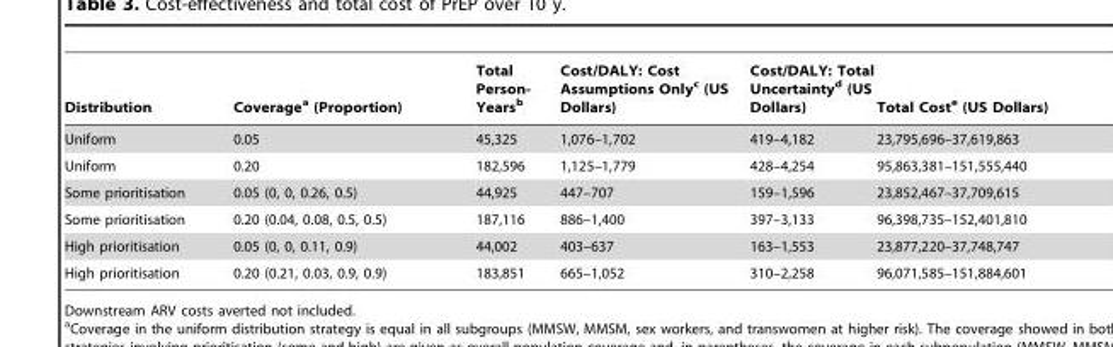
<table><thead><tr><td>Distribution</td><td>Coverage<sup>a</sup> (Proportion)</td><td>Total Person- Years<sup>b</sup></td><td>Cost/DALY: Cost Assumptions Only<sup>c</sup> (US Dollars)</td><td>Cost/DALY: Total Uncertainty<sup>d</sup> (US Dollars)</td><td>Total Cost<sup>e</sup> (US Dollars)</td></tr></thead><tbody><tr><td>Uniform</td><td>0.05</td><td>45,325</td><td>1,076–1,702</td><td>419–4,182</td><td>23,795,696–37,619,863</td></tr><tr><td>Uniform</td><td>0.20</td><td>182,596</td><td>1,125–1,779</td><td>428–4,254</td><td>95,863,381–151,555,440</td></tr><tr><td>Some prioritisation</td><td>0.05 (0, 0, 0.26, 0.5)</td><td>44,925</td><td>447–707</td><td>159–1,596</td><td>23,852,467–37,709,615</td></tr><tr><td>Some prioritisation</td><td>0.20 (0.04, 0.08, 0.5, 0.5)</td><td>187,116</td><td>886–1,400</td><td>397–3,133</td><td>96,398,735–152,401,810</td></tr><tr><td>High prioritisation</td><td>0.05 (0, 0, 0.11, 0.9)</td><td>44,002</td><td>403–637</td><td>163–1,553</td><td>23,877,220–37,748,747</td></tr><tr><td>High prioritisation</td><td>0.20 (0.21, 0.03, 0.9, 0.9)</td><td>183,851</td><td>665–1,052</td><td>310–2,258</td><td>96,071,585–151,884,601</td></tr></tbody></table>